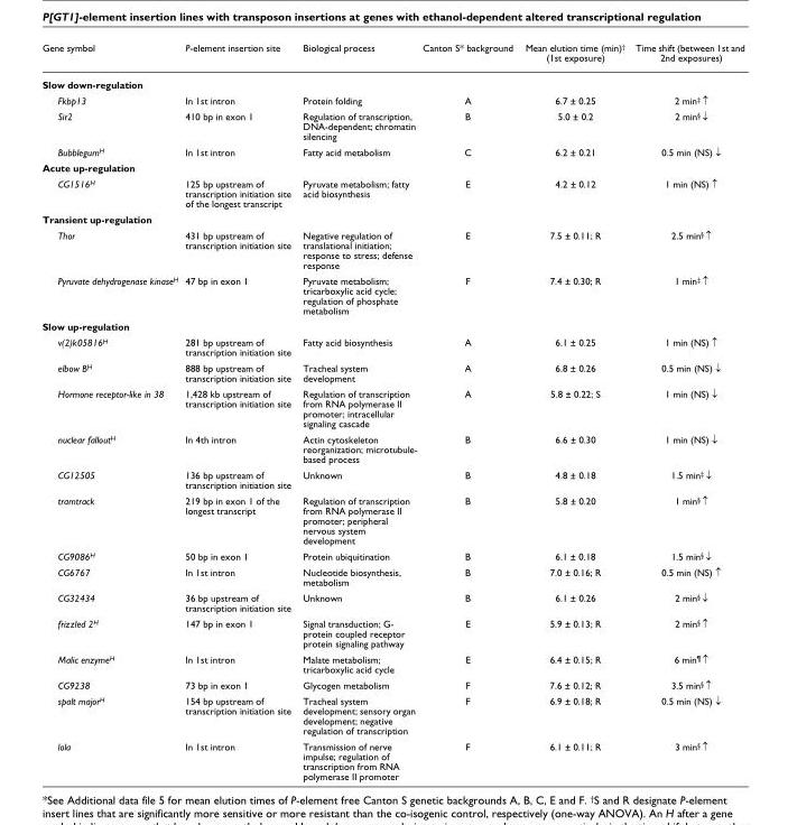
<table><thead><tr><td>Gene symbol</td><td>P-element insertion site</td><td>Biological process</td><td>Canton S* background</td><td>Mean elution time (min)† (1st exposure)</td><td>Time shift (between 1st and 2nd exposures)</td></tr></thead><tbody><tr><td colspan="6">Slow down-regulation</td></tr><tr><td>Fkbp13</td><td>In 1st intron</td><td>Protein folding</td><td>A</td><td>6.7 ± 0.25</td><td>2 min‡ ↑</td></tr><tr><td>Sir2</td><td>410 bp in exon 1</td><td>Regulation of transcription, DNA-dependent; chromatin silencing</td><td>B</td><td>5.0 ± 0.2</td><td>2 min§ ↓</td></tr><tr><td>BubblegumH</td><td>In 1st intron</td><td>Fatty acid metabolism</td><td>C</td><td>6.2 ± 0.21</td><td>0.5 min (NS) ↓</td></tr><tr><td colspan="6">Acute up-regulation</td></tr><tr><td>CG1516H</td><td>125 bp upstream of transcription initiation site of the longest transcript</td><td>Pyruvate metabolism; fatty acid biosynthesis</td><td>E</td><td>4.2 ± 0.12</td><td>1 min (NS) ↑</td></tr><tr><td colspan="6">Transient up-regulation</td></tr><tr><td>Thor</td><td>431 bp upstream of transcription initiation site</td><td>Negative regulation of translational initiation; response to stress; defense response</td><td>E</td><td>7.5 ± 0.11; R</td><td>2.5 min§ ↑</td></tr><tr><td>Pyruvate dehydrogenase kinaseH</td><td>47 bp in exon 1</td><td>Pyruvate metabolism; tricarboxylic acid cycle; regulation of phosphate metabolism</td><td>F</td><td>7.4 ± 0.30; R</td><td>1 min‡ ↑</td></tr><tr><td colspan="6">Slow up-regulation</td></tr><tr><td>v(2)k05816H</td><td>281 bp upstream of transcription initiation site</td><td>Fatty acid biosynthesis</td><td>A</td><td>6.1 ± 0.25</td><td>1 min (NS) ↑</td></tr><tr><td>elbow BH</td><td>888 bp upstream of transcription initiation site</td><td>Tracheal system development</td><td>A</td><td>6.8 ± 0.26</td><td>0.5 min (NS) ↓</td></tr><tr><td>Hormone receptor-like in 38</td><td>1,428 kb upstream of transcription initiation site</td><td>Regulation of transcription from RNA polymerase II promoter; intracellular signaling cascade</td><td>A</td><td>5.8 ± 0.22; S</td><td>1 min (NS) ↓</td></tr><tr><td>nuclear falloutH</td><td>In 4th intron</td><td>Actin cytoskeleton reorganization; microtubule- based process</td><td>B</td><td>6.6 ± 0.30</td><td>1 min (NS) ↓</td></tr><tr><td>CG12505</td><td>136 bp upstream of transcription initiation site</td><td>Unknown</td><td>B</td><td>4.8 ± 0.18</td><td>1.5 min‡ ↓</td></tr><tr><td>tramtrack</td><td>219 bp in exon 1 of the longest transcript</td><td>Regulation of transcription from RNA polymerase II promoter; peripheral nervous system development</td><td>B</td><td>5.8 ± 0.20</td><td>1 min§ ↑</td></tr><tr><td>CG9086H</td><td>50 bp in exon 1</td><td>Protein ubiquitination</td><td>B</td><td>6.1 ± 0.18</td><td>1.5 min§ ↓</td></tr><tr><td>CG6767</td><td>In 1st intron</td><td>Nucleotide biosynthesis, metabolism</td><td>B</td><td>7.0 ± 0.16; R</td><td>0.5 min (NS) ↑</td></tr><tr><td>CG32434</td><td>36 bp upstream of transcription initiation site</td><td>Unknown</td><td>B</td><td>6.1 ± 0.26</td><td>2 min§ ↓</td></tr><tr><td>frizzled 2H</td><td>147 bp in exon 1</td><td>Signal transduction; G- protein coupled receptor protein signaling pathway</td><td>E</td><td>5.9 ± 0.13; R</td><td>2 min§ ↑</td></tr><tr><td>Malic enzymeH</td><td>In 1st intron</td><td>Malate metabolism; tricarboxylic acid cycle</td><td>E</td><td>6.4 ± 0.15; R</td><td>6 min¶ ↑</td></tr><tr><td>CG9238</td><td>73 bp in exon 1</td><td>Glycogen metabolism</td><td>F</td><td>7.6 ± 0.12; R</td><td>3.5 min§ ↑</td></tr><tr><td>spalt majorH</td><td>154 bp upstream of transcription initiation site</td><td>Tracheal system development; sensory organ development; negative regulation of transcription</td><td>F</td><td>6.9 ± 0.18; R</td><td>0.5 min (NS) ↓</td></tr><tr><td>lola</td><td>In 1st intron</td><td>Transmission of nerve impulse; regulation of transcription from RNA polymerase II promoter</td><td>F</td><td>6.1 ± 0.11; R</td><td>3 min§ ↑</td></tr></tbody></table>